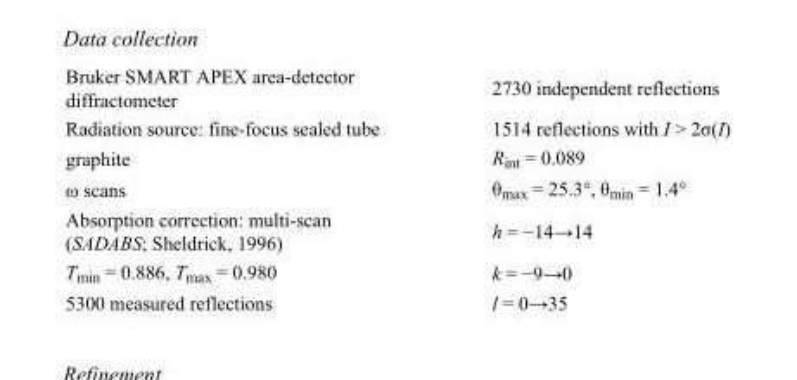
<table><tbody><tr><td>Bruker SMART APEX area-detector diffractometer</td><td>2730 independent reflections</td></tr><tr><td>Radiation source: fine-focus sealed tube</td><td>1514 reflections with I &gt; 2σ(I)</td></tr><tr><td>graphite</td><td>R<sub>int</sub> = 0.089</td></tr><tr><td>ω scans</td><td>θ<sub>max</sub> = 25.3°, θ<sub>min</sub> = 1.4°</td></tr><tr><td>Absorption correction: multi-scan (SADABS; Sheldrick, 1996)</td><td>h = −14→14</td></tr><tr><td>T<sub>min</sub> = 0.886, T<sub>max</sub> = 0.980</td><td>k = −9→0</td></tr><tr><td>5300 measured reflections</td><td>l = 0→35</td></tr></tbody></table>